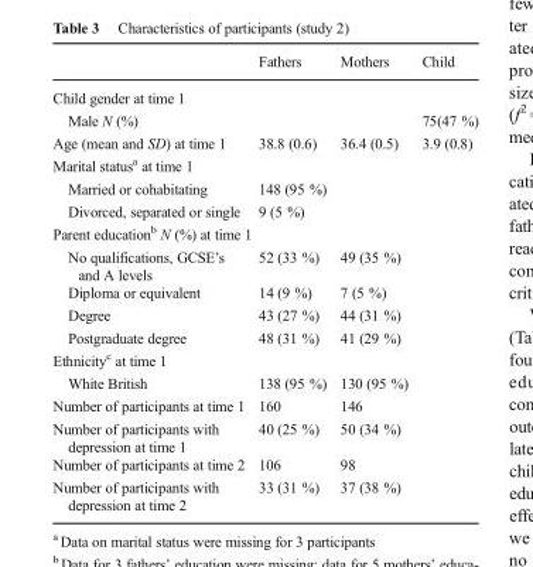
<table><thead><tr><td></td><td>Fathers</td><td>Mothers</td><td>Child</td></tr></thead><tbody><tr><td colspan="4">Child gender at time 1</td></tr><tr><td>Male N (%)</td><td></td><td></td><td>75(47 %)</td></tr><tr><td>Age (mean and SD) at time 1</td><td>38.8 (0.6)</td><td>36.4 (0.5)</td><td>3.9 (0.8)</td></tr><tr><td colspan="4">Marital status<sup>a</sup> at time 1</td></tr><tr><td>Married or cohabitating</td><td colspan="2">148 (95 %)</td><td></td></tr><tr><td>Divorced, separated or single</td><td colspan="2">9 (5 %)</td><td></td></tr><tr><td colspan="4">Parent education<sup>b</sup> N (%) at time 1</td></tr><tr><td>No qualifications, GCSE’s and A levels</td><td>52 (33 %)</td><td>49 (35 %)</td><td></td></tr><tr><td>Diploma or equivalent</td><td>14 (9 %)</td><td>7 (5 %)</td><td></td></tr><tr><td>Degree</td><td>43 (27 %)</td><td>44 (31 %)</td><td></td></tr><tr><td>Postgraduate degree</td><td>48 (31 %)</td><td>41 (29 %)</td><td></td></tr><tr><td colspan="4">Ethnicity<sup>c</sup> at time 1</td></tr><tr><td>White British</td><td>138 (95 %)</td><td>130 (95 %)</td><td></td></tr><tr><td>Number of participants at time 1</td><td>160</td><td>146</td><td></td></tr><tr><td>Number of participants with depression at time 1</td><td>40 (25 %)</td><td>50 (34 %)</td><td></td></tr><tr><td>Number of participants at time 2</td><td>106</td><td>98</td><td></td></tr><tr><td>Number of participants with depression at time 2</td><td>33 (31 %)</td><td>37 (38 %)</td><td></td></tr></tbody></table>